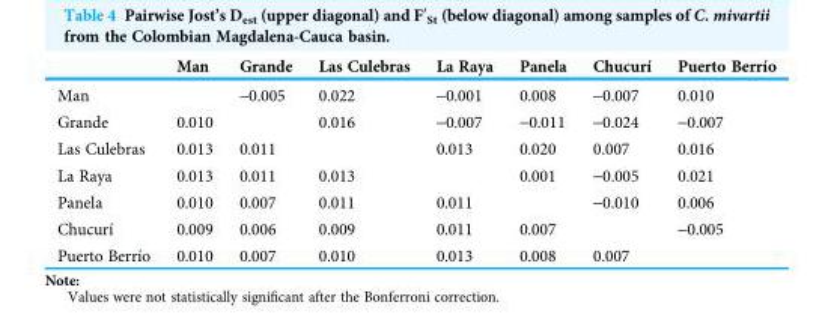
<table><thead><tr><td></td><td>Man</td><td>Grande</td><td>Las Culebras</td><td>La Raya</td><td>Panela</td><td>Chucurí</td><td>Puerto Berrío</td></tr></thead><tbody><tr><td>Man</td><td></td><td>-0.005</td><td>0.022</td><td>-0.001</td><td>0.008</td><td>-0.007</td><td>0.010</td></tr><tr><td>Grande</td><td>0.010</td><td></td><td>0.016</td><td>-0.007</td><td>-0.011</td><td>-0.024</td><td>-0.007</td></tr><tr><td>Las Culebras</td><td>0.013</td><td>0.011</td><td></td><td>0.013</td><td>0.020</td><td>0.007</td><td>0.016</td></tr><tr><td>La Raya</td><td>0.013</td><td>0.011</td><td>0.013</td><td></td><td>0.001</td><td>-0.005</td><td>0.021</td></tr><tr><td>Panela</td><td>0.010</td><td>0.007</td><td>0.011</td><td>0.011</td><td></td><td>-0.010</td><td>0.006</td></tr><tr><td>Chucurí</td><td>0.009</td><td>0.006</td><td>0.009</td><td>0.011</td><td>0.007</td><td></td><td>-0.005</td></tr><tr><td>Puerto Berrío</td><td>0.010</td><td>0.007</td><td>0.010</td><td>0.013</td><td>0.008</td><td>0.007</td><td></td></tr></tbody></table>